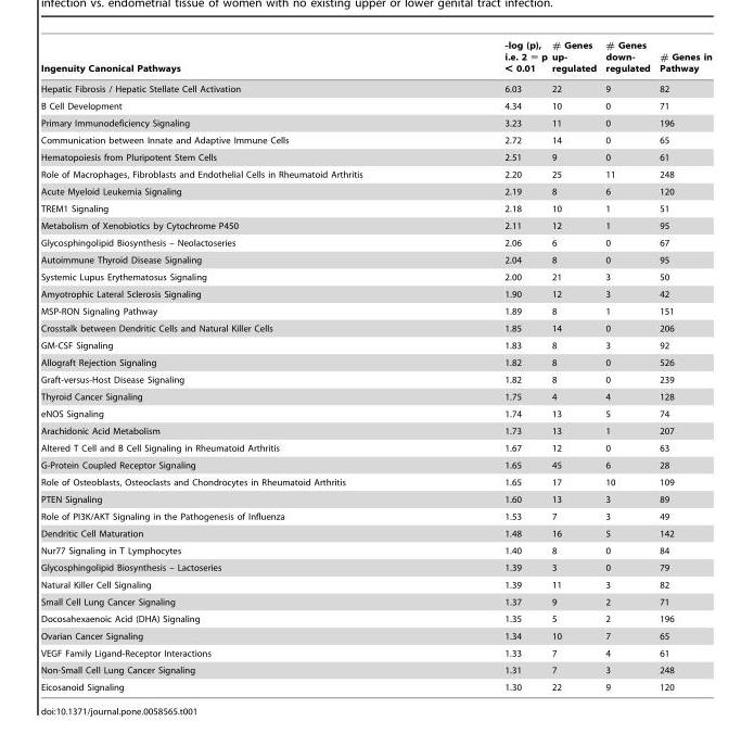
<table><thead><tr><td>Ingenuity Canonical Pathways</td><td>-log (p), i.e. 2 ≡ p &lt; 0.01</td><td># Genes up- regulated</td><td># Genes down- regulated</td><td># Genes in Pathway</td></tr></thead><tbody><tr><td>Hepatic Fibrosis / Hepatic Stellate Cell Activation</td><td>6.03</td><td>22</td><td>9</td><td>82</td></tr><tr><td>B Cell Development</td><td>4.34</td><td>10</td><td>0</td><td>71</td></tr><tr><td>Primary Immunodeficiency Signaling</td><td>3.23</td><td>11</td><td>0</td><td>196</td></tr><tr><td>Communication between Innate and Adaptive Immune Cells</td><td>2.72</td><td>14</td><td>0</td><td>65</td></tr><tr><td>Hematopoiesis from Pluripotent Stem Cells</td><td>2.51</td><td>9</td><td>0</td><td>61</td></tr><tr><td>Role of Macrophages, Fibroblasts and Endothelial Cells in Rheumatoid Arthritis</td><td>2.20</td><td>25</td><td>11</td><td>248</td></tr><tr><td>Acute Myeloid Leukemia Signaling</td><td>2.19</td><td>8</td><td>6</td><td>120</td></tr><tr><td>TREM1 Signaling</td><td>2.18</td><td>10</td><td>1</td><td>51</td></tr><tr><td>Metabolism of Xenobiotics by Cytochrome P450</td><td>2.11</td><td>12</td><td>1</td><td>95</td></tr><tr><td>Glycosphingolipid Biosynthesis – Neolactoseries</td><td>2.06</td><td>6</td><td>0</td><td>67</td></tr><tr><td>Autoimmune Thyroid Disease Signaling</td><td>2.04</td><td>8</td><td>0</td><td>95</td></tr><tr><td>Systemic Lupus Erythematosus Signaling</td><td>2.00</td><td>21</td><td>3</td><td>50</td></tr><tr><td>Amyotrophic Lateral Sclerosis Signaling</td><td>1.90</td><td>12</td><td>3</td><td>42</td></tr><tr><td>MSP-RON Signaling Pathway</td><td>1.89</td><td>8</td><td>1</td><td>151</td></tr><tr><td>Crosstalk between Dendritic Cells and Natural Killer Cells</td><td>1.85</td><td>14</td><td>0</td><td>206</td></tr><tr><td>GM-CSF Signaling</td><td>1.83</td><td>8</td><td>3</td><td>92</td></tr><tr><td>Allograft Rejection Signaling</td><td>1.82</td><td>8</td><td>0</td><td>526</td></tr><tr><td>Graft-versus-Host Disease Signaling</td><td>1.82</td><td>8</td><td>0</td><td>239</td></tr><tr><td>Thyroid Cancer Signaling</td><td>1.75</td><td>4</td><td>4</td><td>128</td></tr><tr><td>eNOS Signaling</td><td>1.74</td><td>13</td><td>5</td><td>74</td></tr><tr><td>Arachidonic Acid Metabolism</td><td>1.73</td><td>13</td><td>1</td><td>207</td></tr><tr><td>Altered T Cell and B Cell Signaling in Rheumatoid Arthritis</td><td>1.67</td><td>12</td><td>0</td><td>63</td></tr><tr><td>G-Protein Coupled Receptor Signaling</td><td>1.65</td><td>45</td><td>6</td><td>28</td></tr><tr><td>Role of Osteoblasts, Osteoclasts and Chondrocytes in Rheumatoid Arthritis</td><td>1.65</td><td>17</td><td>10</td><td>109</td></tr><tr><td>PTEN Signaling</td><td>1.60</td><td>13</td><td>3</td><td>89</td></tr><tr><td>Role of PI3K/AKT Signaling in the Pathogenesis of Influenza</td><td>1.53</td><td>7</td><td>3</td><td>49</td></tr><tr><td>Dendritic Cell Maturation</td><td>1.48</td><td>16</td><td>5</td><td>142</td></tr><tr><td>Nur77 Signaling in T Lymphocytes</td><td>1.40</td><td>8</td><td>0</td><td>84</td></tr><tr><td>Glycosphingolipid Biosynthesis – Lactoseries</td><td>1.39</td><td>3</td><td>0</td><td>79</td></tr><tr><td>Natural Killer Cell Signaling</td><td>1.39</td><td>11</td><td>3</td><td>82</td></tr><tr><td>Small Cell Lung Cancer Signaling</td><td>1.37</td><td>9</td><td>2</td><td>71</td></tr><tr><td>Docosahexaenoic Acid (DHA) Signaling</td><td>1.35</td><td>5</td><td>2</td><td>196</td></tr><tr><td>Ovarian Cancer Signaling</td><td>1.34</td><td>10</td><td>7</td><td>65</td></tr><tr><td>VEGF Family Ligand-Receptor Interactions</td><td>1.33</td><td>7</td><td>4</td><td>61</td></tr><tr><td>Non-Small Cell Lung Cancer Signaling</td><td>1.31</td><td>7</td><td>3</td><td>248</td></tr><tr><td>Eicosanoid Signaling</td><td>1.30</td><td>22</td><td>9</td><td>120</td></tr></tbody></table>